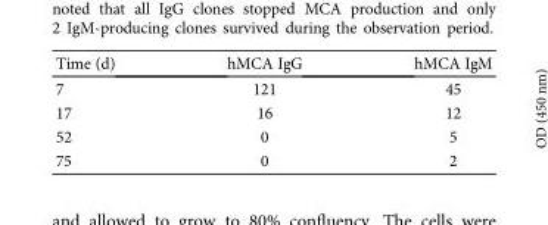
<table><thead><tr><td>Time (d)</td><td>hMCA IgG</td><td>hMCA IgM</td></tr></thead><tbody><tr><td>7</td><td>121</td><td>45</td></tr><tr><td>17</td><td>16</td><td>12</td></tr><tr><td>52</td><td>0</td><td>5</td></tr><tr><td>75</td><td>0</td><td>2</td></tr></tbody></table>